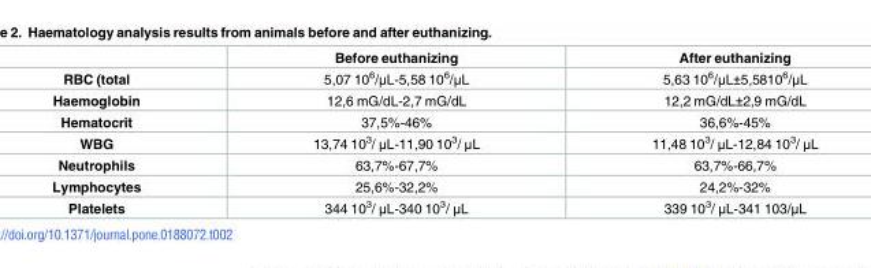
<table><thead><tr><td></td><td>Before euthanizing</td><td>After euthanizing</td></tr></thead><tbody><tr><td>RBC (total</td><td>5,07 10<sup>6</sup>/μL-5,58 10<sup>6</sup>/μL</td><td>5,63 10<sup>6</sup>/μL±5,5810<sup>6</sup>/μL</td></tr><tr><td>Haemoglobin</td><td>12,6 mG/dL-2,7 mG/dL</td><td>12,2 mG/dL±2,9 mG/dL</td></tr><tr><td>Hematocrit</td><td>37,5%-46%</td><td>36,6%-45%</td></tr><tr><td>WBG</td><td>13,74 10<sup>3</sup>/ μL-11,90 10<sup>3</sup>/ μL</td><td>11,48 10<sup>3</sup>/ μL-12,84 10<sup>3</sup>/ μL</td></tr><tr><td>Neutrophils</td><td>63,7%-67,7%</td><td>63,7%-66,7%</td></tr><tr><td>Lymphocytes</td><td>25,6%-32,2%</td><td>24,2%-32%</td></tr><tr><td>Platelets</td><td>344 10<sup>3</sup>/ μL-340 10<sup>3</sup>/ μL</td><td>339 10<sup>3</sup>/ μL-341 103/μL</td></tr></tbody></table>